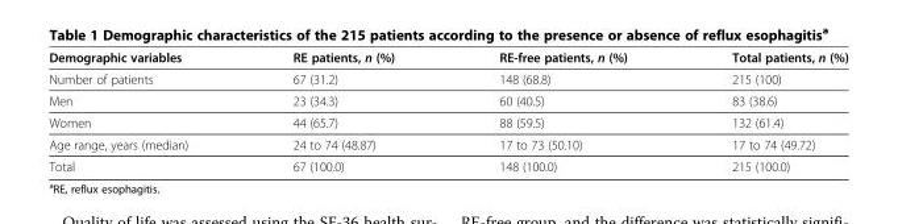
<table><thead><tr><td>Demographic variables</td><td>RE patients, n (%)</td><td>RE-free patients, n (%)</td><td>Total patients, n (%)</td></tr></thead><tbody><tr><td>Number of patients</td><td>67 (31.2)</td><td>148 (68.8)</td><td>215 (100)</td></tr><tr><td>Men</td><td>23 (34.3)</td><td>60 (40.5)</td><td>83 (38.6)</td></tr><tr><td>Women</td><td>44 (65.7)</td><td>88 (59.5)</td><td>132 (61.4)</td></tr><tr><td>Age range, years (median)</td><td>24 to 74 (48.87)</td><td>17 to 73 (50.10)</td><td>17 to 74 (49.72)</td></tr><tr><td>Total</td><td>67 (100.0)</td><td>148 (100.0)</td><td>215 (100.0)</td></tr></tbody></table>